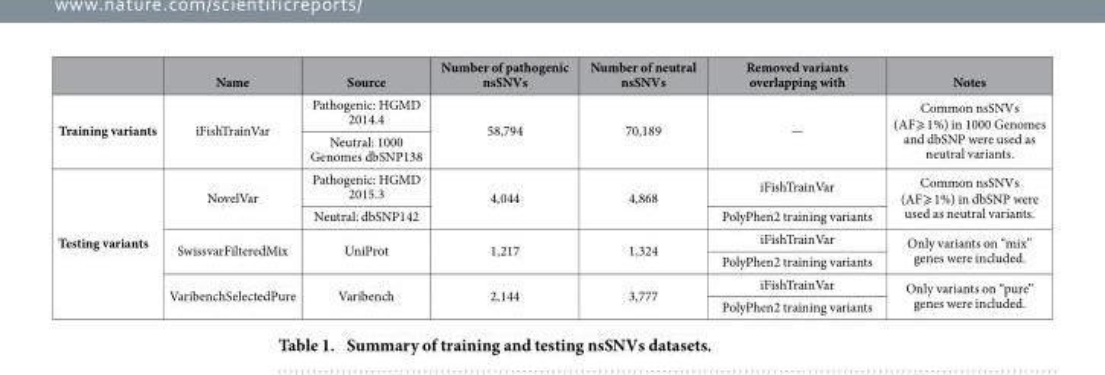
<table><thead><tr><td></td><td>Name</td><td>Source</td><td>Number of pathogenic nsSNVs</td><td>Number of neutral nsSNVs</td><td>Removed variants overlapping with</td><td>Notes</td></tr></thead><tbody><tr><td rowspan="2">Training variants</td><td rowspan="2">iFishTrainVar</td><td>Pathogenic: HGMD 2014.4</td><td rowspan="2">58,794</td><td rowspan="2">70,189</td><td rowspan="2">—</td><td rowspan="2">Common nsSNVs (AF ⩾ 1%) in 1000 Genomes and dbSNP were used as neutral variants.</td></tr><tr><td>Neutral: 1000 Genomes dbSNP138</td></tr><tr><td rowspan="6">Testing variants</td><td rowspan="2">NovelVar</td><td>Pathogenic: HGMD 2015.3</td><td rowspan="2">4,044</td><td rowspan="2">4,868</td><td>iFishTrainVar</td><td rowspan="2">Common nsSNVs (AF ⩾ 1%) in dbSNP were used as neutral variants.</td></tr><tr><td>Neutral: dbSNP142</td><td>PolyPhen2 training variants</td></tr><tr><td rowspan="2">SwissvarFilteredMix</td><td rowspan="2">UniProt</td><td rowspan="2">1,217</td><td rowspan="2">1,324</td><td>iFishTrainVar</td><td rowspan="2">Only variants on “mix” genes were included.</td></tr><tr><td>PolyPhen2 training variants</td></tr><tr><td rowspan="2">VaribenchSelectedPure</td><td rowspan="2">Varibench</td><td rowspan="2">2,144</td><td rowspan="2">3,777</td><td>iFishTrainVar</td><td rowspan="2">Only variants on “pure” genes were included.</td></tr><tr><td>PolyPhen2 training variants</td></tr></tbody></table>